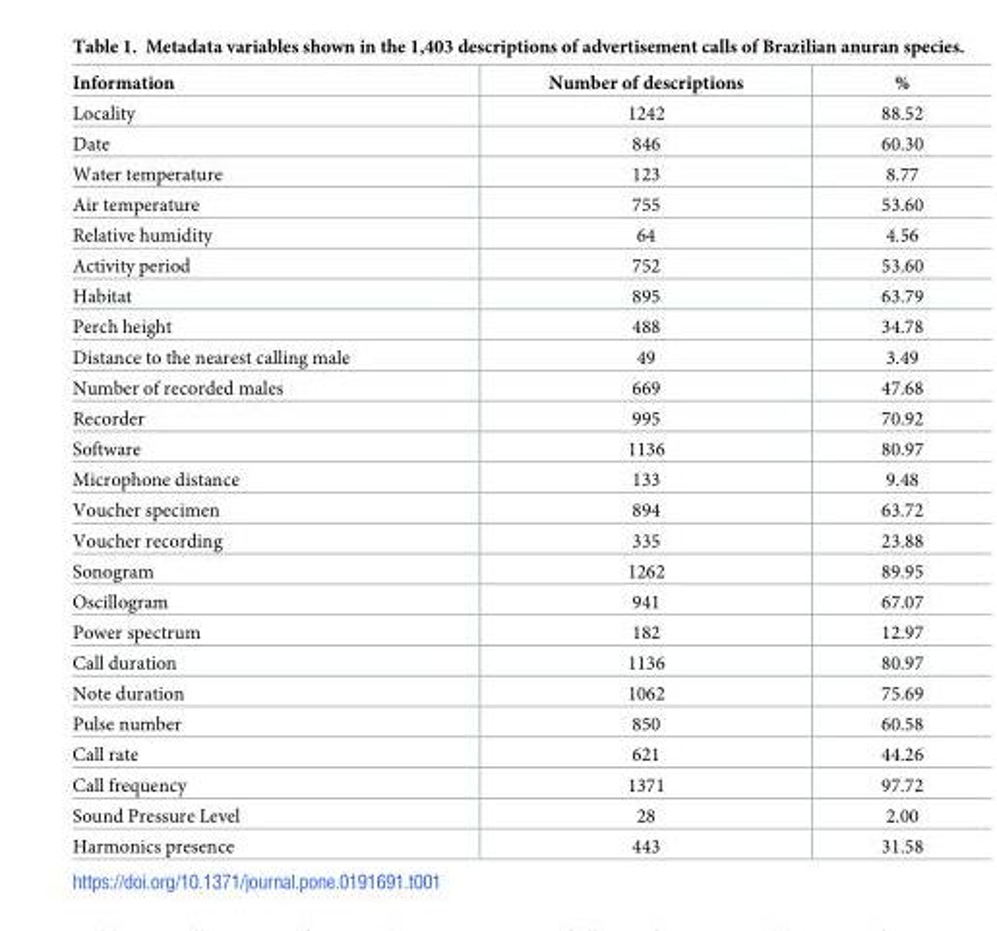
<table><thead><tr><td>Information</td><td>Number of descriptions</td><td>%</td></tr></thead><tbody><tr><td>Locality</td><td>1242</td><td>88.52</td></tr><tr><td>Date</td><td>846</td><td>60.30</td></tr><tr><td>Water temperature</td><td>123</td><td>8.77</td></tr><tr><td>Air temperature</td><td>755</td><td>53.60</td></tr><tr><td>Relative humidity</td><td>64</td><td>4.56</td></tr><tr><td>Activity period</td><td>752</td><td>53.60</td></tr><tr><td>Habitat</td><td>895</td><td>63.79</td></tr><tr><td>Perch height</td><td>488</td><td>34.78</td></tr><tr><td>Distance to the nearest calling male</td><td>49</td><td>3.49</td></tr><tr><td>Number of recorded males</td><td>669</td><td>47.68</td></tr><tr><td>Recorder</td><td>995</td><td>70.92</td></tr><tr><td>Software</td><td>1136</td><td>80.97</td></tr><tr><td>Microphone distance</td><td>133</td><td>9.48</td></tr><tr><td>Voucher specimen</td><td>894</td><td>63.72</td></tr><tr><td>Voucher recording</td><td>335</td><td>23.88</td></tr><tr><td>Sonogram</td><td>1262</td><td>89.95</td></tr><tr><td>Oscillogram</td><td>941</td><td>67.07</td></tr><tr><td>Power spectrum</td><td>182</td><td>12.97</td></tr><tr><td>Call duration</td><td>1136</td><td>80.97</td></tr><tr><td>Note duration</td><td>1062</td><td>75.69</td></tr><tr><td>Pulse number</td><td>850</td><td>60.58</td></tr><tr><td>Call rate</td><td>621</td><td>44.26</td></tr><tr><td>Call frequency</td><td>1371</td><td>97.72</td></tr><tr><td>Sound Pressure Level</td><td>28</td><td>2.00</td></tr><tr><td>Harmonics presence</td><td>443</td><td>31.58</td></tr></tbody></table>